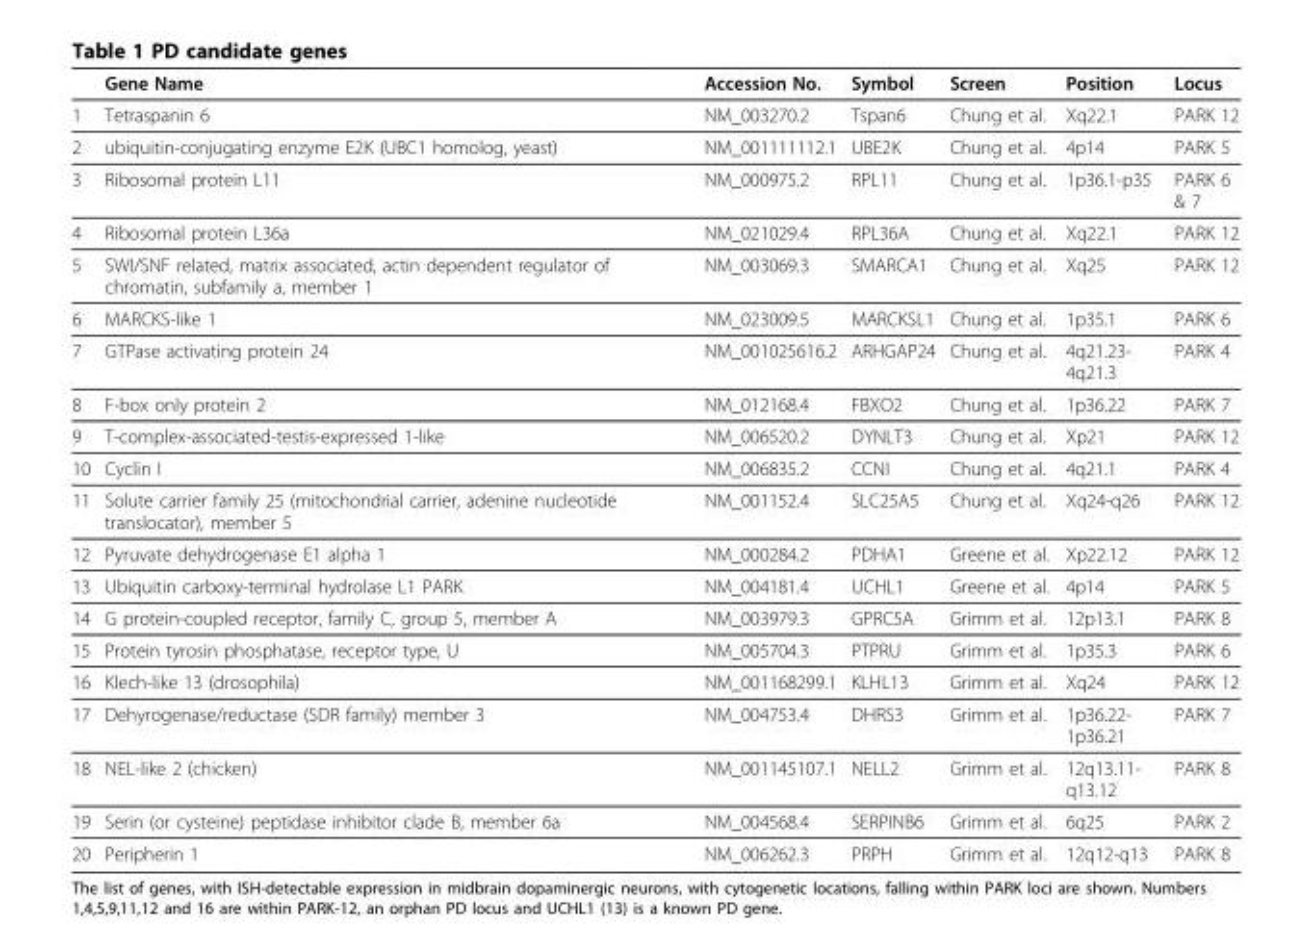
<table><thead><tr><td></td><td>Gene Name</td><td>Accession No.</td><td>Symbol</td><td>Screen</td><td>Position</td><td>Locus</td></tr></thead><tbody><tr><td>1</td><td>Tetraspanin 6</td><td>NM_003270.2</td><td>Tspan6</td><td>Chung et al.</td><td>Xq22.1</td><td>PARK 12</td></tr><tr><td>2</td><td>ubiquitin-conjugating enzyme E2K (UBC1 homolog, yeast)</td><td>NM_001111112.1</td><td>UBE2K</td><td>Chung et al.</td><td>4p14</td><td>PARK 5</td></tr><tr><td>3</td><td>Ribosomal protein L11</td><td>NM_000975.2</td><td>RPL11</td><td>Chung et al.</td><td>1p36.1-p35</td><td>PARK 6 &amp; 7</td></tr><tr><td>4</td><td>Ribosomal protein L36a</td><td>NM_021029.4</td><td>RPL36A</td><td>Chung et al.</td><td>Xq22.1</td><td>PARK 12</td></tr><tr><td>5</td><td>SWI/SNF related, matrix associated, actin dependent regulator of chromatin, subfamily a, member 1</td><td>NM_003069.3</td><td>SMARCA1</td><td>Chung et al.</td><td>Xq25</td><td>PARK 12</td></tr><tr><td>6</td><td>MARCKS-like 1</td><td>NM_023009.5</td><td>MARCKSL1</td><td>Chung et al.</td><td>1p35.1</td><td>PARK 6</td></tr><tr><td>7</td><td>GTPase activating protein 24</td><td>NM_001025616.2</td><td>ARHGAP24</td><td>Chung et al.</td><td>4q21.23- 4q21.3</td><td>PARK 4</td></tr><tr><td>8</td><td>F-box only protein 2</td><td>NM_012168.4</td><td>FBXO2</td><td>Chung et al.</td><td>1p36.22</td><td>PARK 7</td></tr><tr><td>9</td><td>T-complex-associated-testis-expressed 1-like</td><td>NM_006520.2</td><td>DYNLT3</td><td>Chung et al.</td><td>Xp21</td><td>PARK 12</td></tr><tr><td>10</td><td>Cyclin I</td><td>NM_006835.2</td><td>CCNI</td><td>Chung et al.</td><td>4q21.1</td><td>PARK 4</td></tr><tr><td>11</td><td>Solute carrier family 25 (mitochondrial carrier, adenine nucleotide translocator), member 5</td><td>NM_001152.4</td><td>SLC25A5</td><td>Chung et al.</td><td>Xq24-q26</td><td>PARK 12</td></tr><tr><td>12</td><td>Pyruvate dehydrogenase E1 alpha 1</td><td>NM_000284.2</td><td>PDHA1</td><td>Greene et al.</td><td>Xp22.12</td><td>PARK 12</td></tr><tr><td>13</td><td>Ubiquitin carboxy-terminal hydrolase L1 PARK</td><td>NM_004181.4</td><td>UCHL1</td><td>Greene et al.</td><td>4p14</td><td>PARK 5</td></tr><tr><td>14</td><td>G protein-coupled receptor, family C, group 5, member A</td><td>NM_003979.3</td><td>GPRC5A</td><td>Grimm et al.</td><td>12p13.1</td><td>PARK 8</td></tr><tr><td>15</td><td>Protein tyrosin phosphatase, receptor type, U</td><td>NM_005704.3</td><td>PTPRU</td><td>Grimm et al.</td><td>1p35.3</td><td>PARK 6</td></tr><tr><td>16</td><td>Klech-like 13 (drosophila)</td><td>NM_001168299.1</td><td>KLHL13</td><td>Grimm et al.</td><td>Xq24</td><td>PARK 12</td></tr><tr><td>17</td><td>Dehyrogenase/reductase (SDR family) member 3</td><td>NM_004753.4</td><td>DHRS3</td><td>Grimm et al.</td><td>1p36.22- 1p36.21</td><td>PARK 7</td></tr><tr><td>18</td><td>NEL-like 2 (chicken)</td><td>NM_001145107.1</td><td>NELL2</td><td>Grimm et al.</td><td>12q13.11- q13.12</td><td>PARK 8</td></tr><tr><td>19</td><td>Serin (or cysteine) peptidase inhibitor clade B, member 6a</td><td>NM_004568.4</td><td>SERPINB6</td><td>Grimm et al.</td><td>6q25</td><td>PARK 2</td></tr><tr><td>20</td><td>Peripherin 1</td><td>NM_006262.3</td><td>PRPH</td><td>Grimm et al.</td><td>12q12-q13</td><td>PARK 8</td></tr></tbody></table>